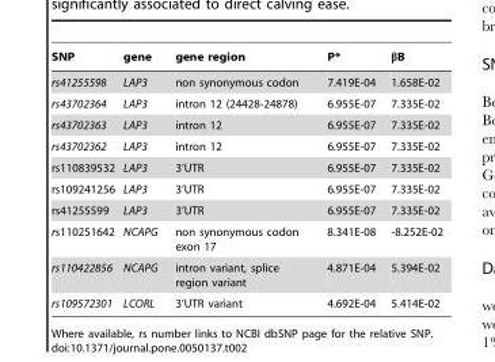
<table><thead><tr><td>SNP</td><td>gene</td><td>gene region</td><td>P*</td><td>βB</td></tr></thead><tbody><tr><td>rs41255598</td><td>LAP3</td><td>non synonymous codon</td><td>7.419E-04</td><td>1.658E-02</td></tr><tr><td>rs43702364</td><td>LAP3</td><td>intron 12 (24428-24878)</td><td>6.955E-07</td><td>7.335E-02</td></tr><tr><td>rs43702363</td><td>LAP3</td><td>intron 12</td><td>6.955E-07</td><td>7.335E-02</td></tr><tr><td>rs43702362</td><td>LAP3</td><td>intron 12</td><td>6.955E-07</td><td>7.335E-02</td></tr><tr><td>rs110839532</td><td>LAP3</td><td>3’UTR</td><td>6.955E-07</td><td>7.335E-02</td></tr><tr><td>rs109241256</td><td>LAP3</td><td>3’UTR</td><td>6.955E-07</td><td>7.335E-02</td></tr><tr><td>rs41255599</td><td>LAP3</td><td>3’UTR</td><td>6.955E-07</td><td>7.335E-02</td></tr><tr><td>rs110251642</td><td>NCAPG</td><td>non synonymous codon exon 17</td><td>8.341E-08</td><td>-8.252E-02</td></tr><tr><td>rs110422856</td><td>NCAPG</td><td>intron variant, splice region variant</td><td>4.871E-04</td><td>5.394E-02</td></tr><tr><td>rs109572301</td><td>LCORL</td><td>3’UTR variant</td><td>4.692E-04</td><td>5.414E-02</td></tr></tbody></table>